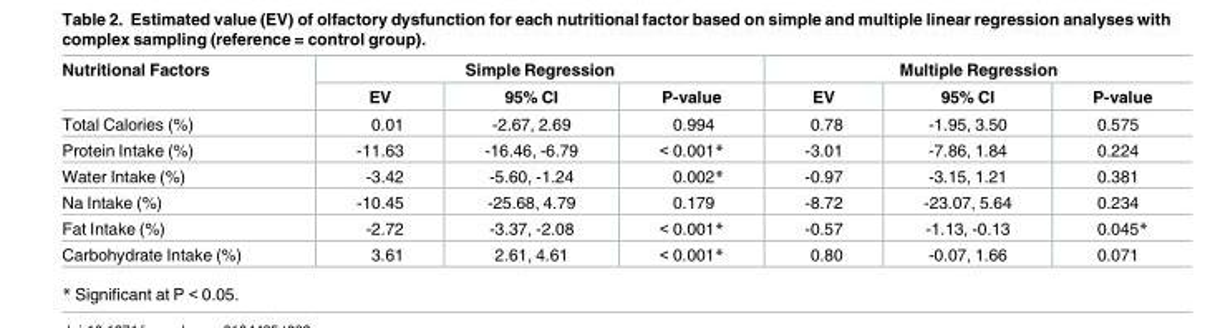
<table><thead><tr><td rowspan="2">Nutritional Factors</td><td colspan="3">Simple Regression</td><td colspan="3">Multiple Regression</td></tr><tr><td>EV</td><td>95% CI</td><td>P-value</td><td>EV</td><td>95% CI</td><td>P-value</td></tr></thead><tbody><tr><td>Total Calories (%)</td><td>0.01</td><td>-2.67, 2.69</td><td>0.994</td><td>0.78</td><td>-1.95, 3.50</td><td>0.575</td></tr><tr><td>Protein Intake (%)</td><td>-11.63</td><td>-16.46, -6.79</td><td>&lt; 0.001*</td><td>-3.01</td><td>-7.86, 1.84</td><td>0.224</td></tr><tr><td>Water Intake (%)</td><td>-3.42</td><td>-5.60, -1.24</td><td>0.002*</td><td>-0.97</td><td>-3.15, 1.21</td><td>0.381</td></tr><tr><td>Na Intake (%)</td><td>-10.45</td><td>-25.68, 4.79</td><td>0.179</td><td>-8.72</td><td>-23.07, 5.64</td><td>0.234</td></tr><tr><td>Fat Intake (%)</td><td>-2.72</td><td>-3.37, -2.08</td><td>&lt; 0.001*</td><td>-0.57</td><td>-1.13, -0.13</td><td>0.045*</td></tr><tr><td>Carbohydrate Intake (%)</td><td>3.61</td><td>2.61, 4.61</td><td>&lt; 0.001*</td><td>0.80</td><td>-0.07, 1.66</td><td>0.071</td></tr></tbody></table>